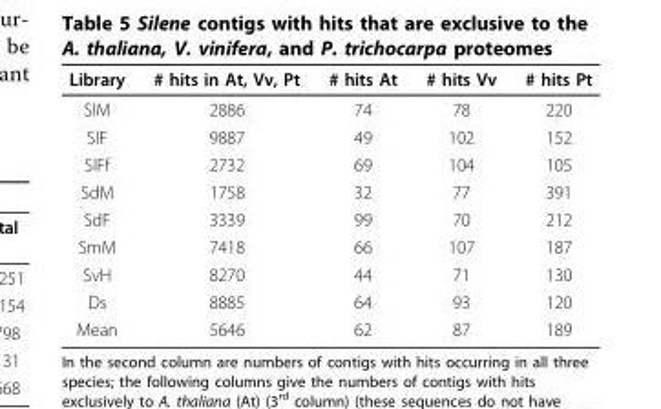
<table><thead><tr><td>Library</td><td># hits in At, Vv, Pt</td><td># hits At</td><td># hits Vv</td><td># hits Pt</td></tr></thead><tbody><tr><td>SlM</td><td>2886</td><td>74</td><td>78</td><td>220</td></tr><tr><td>SlF</td><td>9887</td><td>49</td><td>102</td><td>152</td></tr><tr><td>SlFf</td><td>2732</td><td>69</td><td>104</td><td>105</td></tr><tr><td>SdM</td><td>1758</td><td>32</td><td>77</td><td>391</td></tr><tr><td>SdF</td><td>3339</td><td>99</td><td>70</td><td>212</td></tr><tr><td>SmM</td><td>7418</td><td>66</td><td>107</td><td>187</td></tr><tr><td>SvH</td><td>8270</td><td>44</td><td>71</td><td>130</td></tr><tr><td>Ds</td><td>8885</td><td>64</td><td>93</td><td>120</td></tr><tr><td>Mean</td><td>5646</td><td>62</td><td>87</td><td>189</td></tr></tbody></table>